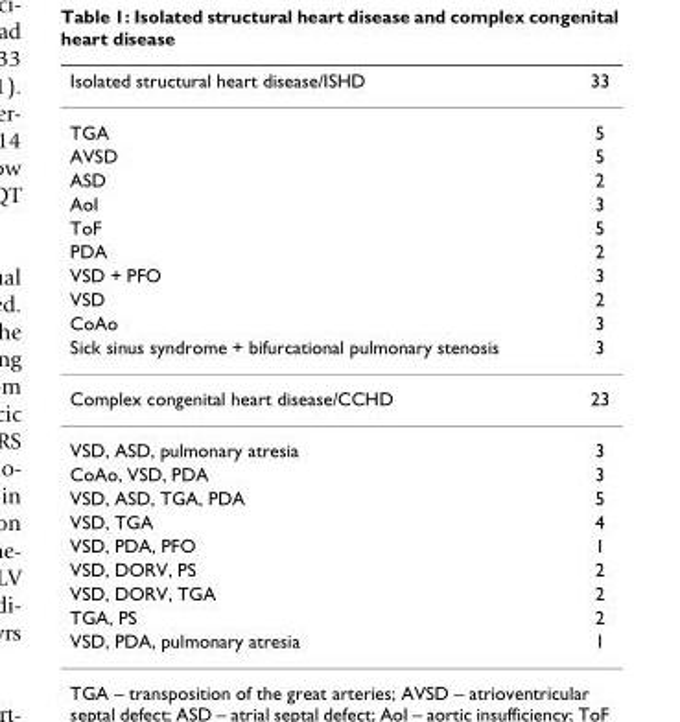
<table><thead><tr><td>Isolated structural heart disease/ISHD</td><td>33</td></tr></thead><tbody><tr><td>TGA</td><td>5</td></tr><tr><td>AVSD</td><td>5</td></tr><tr><td>ASD</td><td>2</td></tr><tr><td>AoI</td><td>3</td></tr><tr><td>ToF</td><td>5</td></tr><tr><td>PDA</td><td>2</td></tr><tr><td>VSD + PFO</td><td>3</td></tr><tr><td>VSD</td><td>2</td></tr><tr><td>CoAo</td><td>3</td></tr><tr><td>Sick sinus syndrome + bifurcational pulmonary stenosis</td><td>3</td></tr><tr><td>Complex congenital heart disease/CCHD</td><td>23</td></tr><tr><td>VSD, ASD, pulmonary atresia</td><td>3</td></tr><tr><td>CoAo, VSD, PDA</td><td>3</td></tr><tr><td>VSD, ASD, TGA, PDA</td><td>5</td></tr><tr><td>VSD, TGA</td><td>4</td></tr><tr><td>VSD, PDA, PFO</td><td>1</td></tr><tr><td>VSD, DORV, PS</td><td>2</td></tr><tr><td>VSD, DORV, TGA</td><td>2</td></tr><tr><td>TGA, PS</td><td>2</td></tr><tr><td>VSD, PDA, pulmonary atresia</td><td>1</td></tr></tbody></table>